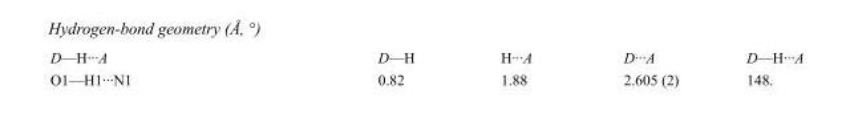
<table><tbody><tr><td>D—H···A</td><td>D—H</td><td>H···A</td><td>D···A</td><td>D—H···A</td></tr><tr><td>O1—H1···N1</td><td>0.82</td><td>1.88</td><td>2.605 (2)</td><td>148.</td></tr></tbody></table>